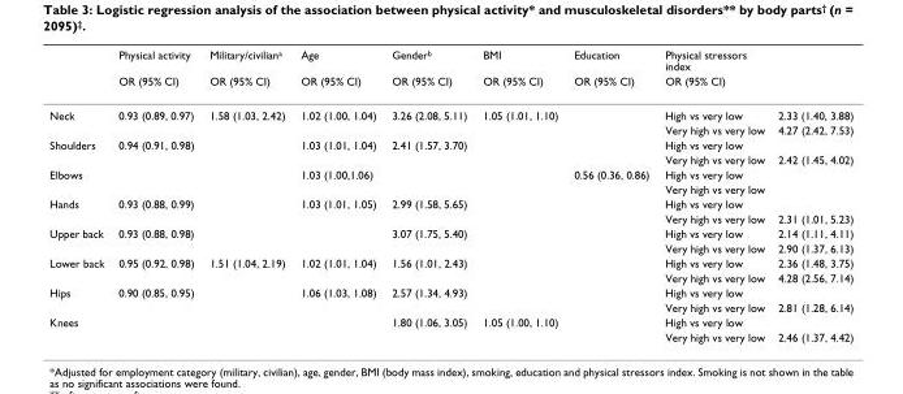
<table><thead><tr><td rowspan="2"></td><td rowspan="2">Physical activity OR (95% CI)</td><td rowspan="2">Military/civilian<sup>a</sup> OR (95% CI)</td><td rowspan="2">Age OR (95% CI)</td><td rowspan="2">Gender<sup>b</sup> OR (95% CI)</td><td rowspan="2">BMI OR (95% CI)</td><td rowspan="2">Education OR (95% CI)</td><td rowspan="2">Physical stressors index OR (95% CI)</td><td rowspan="2"></td></tr><tr></tr></thead><tbody><tr><td rowspan="2">Neck</td><td>0.93 (0.89, 0.97)</td><td>1.58 (1.03, 2.42)</td><td>1.02 (1.00, 1.04)</td><td>3.26 (2.08, 5.11)</td><td>1.05 (1.01, 1.10)</td><td></td><td>High vs very low</td><td>2.33 (1.40, 3.88)</td></tr><tr><td></td><td></td><td></td><td></td><td></td><td></td><td>Very high vs very low</td><td>4.27 (2.42, 7.53)</td></tr><tr><td rowspan="2">Shoulders</td><td>0.94 (0.91, 0.98)</td><td></td><td>1.03 (1.01, 1.04)</td><td>2.41 (1.57, 3.70)</td><td></td><td></td><td>High vs very low</td><td></td></tr><tr><td></td><td></td><td></td><td></td><td></td><td></td><td>Very high vs very low</td><td>2.42 (1.45, 4.02)</td></tr><tr><td rowspan="2">Elbows</td><td></td><td></td><td>1.03 (1.00,1.06)</td><td></td><td></td><td>0.56 (0.36, 0.86)</td><td>High vs very low</td><td></td></tr><tr><td></td><td></td><td></td><td></td><td></td><td></td><td>Very high vs very low</td><td></td></tr><tr><td rowspan="2">Hands</td><td>0.93 (0.88, 0.99)</td><td></td><td>1.03 (1.01, 1.05)</td><td>2.99 (1.58, 5.65)</td><td></td><td></td><td>High vs very low</td><td></td></tr><tr><td></td><td></td><td></td><td></td><td></td><td></td><td>Very high vs very low</td><td>2.31 (1.01, 5.23)</td></tr><tr><td rowspan="2">Upper back</td><td>0.93 (0.88, 0.98)</td><td></td><td></td><td>3.07 (1.75, 5.40)</td><td></td><td></td><td>High vs very low</td><td>2.14 (1.11, 4.11)</td></tr><tr><td></td><td></td><td></td><td></td><td></td><td></td><td>Very high vs very low</td><td>2.90 (1.37, 6.13)</td></tr><tr><td rowspan="2">Lower back</td><td>0.95 (0.92, 0.98)</td><td>1.51 (1.04, 2.19)</td><td>1.02 (1.01, 1.04)</td><td>1.56 (1.01, 2.43)</td><td></td><td></td><td>High vs very low</td><td>2.36 (1.48, 3.75)</td></tr><tr><td></td><td></td><td></td><td></td><td></td><td></td><td>Very high vs very low</td><td>4.28 (2.56, 7.14)</td></tr><tr><td rowspan="2">Hips</td><td>0.90 (0.85, 0.95)</td><td></td><td>1.06 (1.03, 1.08)</td><td>2.57 (1.34, 4.93)</td><td></td><td></td><td>High vs very low</td><td></td></tr><tr><td></td><td></td><td></td><td></td><td></td><td></td><td>Very high vs very low</td><td>2.81 (1.28, 6.14)</td></tr><tr><td rowspan="2">Knees</td><td></td><td></td><td></td><td>1.80 (1.06, 3.05)</td><td>1.05 (1.00, 1.10)</td><td></td><td>High vs very low</td><td></td></tr><tr><td></td><td></td><td></td><td></td><td></td><td></td><td>Very high vs very low</td><td>2.46 (1.37, 4.42)</td></tr></tbody></table>